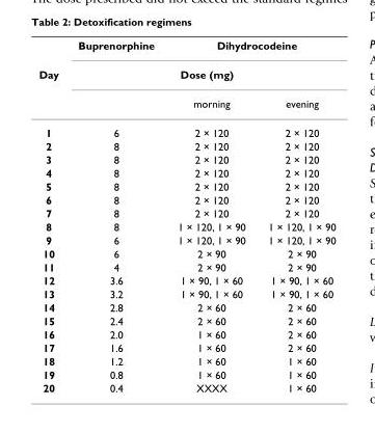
<table><thead><tr><td rowspan="3">Day</td><td>Buprenorphine</td><td colspan="2">Dihydrocodeine</td></tr><tr><td colspan="3">Dose (mg)</td></tr><tr><td></td><td>morning</td><td>evening</td></tr></thead><tbody><tr><td>1</td><td>6</td><td>2 × 120</td><td>2 × 120</td></tr><tr><td>2</td><td>8</td><td>2 × 120</td><td>2 × 120</td></tr><tr><td>3</td><td>8</td><td>2 × 120</td><td>2 × 120</td></tr><tr><td>4</td><td>8</td><td>2 × 120</td><td>2 × 120</td></tr><tr><td>5</td><td>8</td><td>2 × 120</td><td>2 × 120</td></tr><tr><td>6</td><td>8</td><td>2 × 120</td><td>2 × 120</td></tr><tr><td>7</td><td>8</td><td>2 × 120</td><td>2 × 120</td></tr><tr><td>8</td><td>8</td><td>1 × 120, 1 × 90</td><td>1 × 120, 1 × 90</td></tr><tr><td>9</td><td>6</td><td>1 × 120, 1 × 90</td><td>1 × 120, 1 × 90</td></tr><tr><td>10</td><td>6</td><td>2 × 90</td><td>2 × 90</td></tr><tr><td>11</td><td>4</td><td>2 × 90</td><td>2 × 90</td></tr><tr><td>12</td><td>3.6</td><td>1 × 90, 1 × 60</td><td>1 × 90, 1 × 60</td></tr><tr><td>13</td><td>3.2</td><td>1 × 90, 1 × 60</td><td>1 × 90, 1 × 60</td></tr><tr><td>14</td><td>2.8</td><td>2 × 60</td><td>2 × 60</td></tr><tr><td>15</td><td>2.4</td><td>2 × 60</td><td>2 × 60</td></tr><tr><td>16</td><td>2.0</td><td>1 × 60</td><td>2 × 60</td></tr><tr><td>17</td><td>1.6</td><td>1 × 60</td><td>2 × 60</td></tr><tr><td>18</td><td>1.2</td><td>1 × 60</td><td>1 × 60</td></tr><tr><td>19</td><td>0.8</td><td>1 × 60</td><td>1 × 60</td></tr><tr><td>20</td><td>0.4</td><td>XXXX</td><td>1 × 60</td></tr></tbody></table>